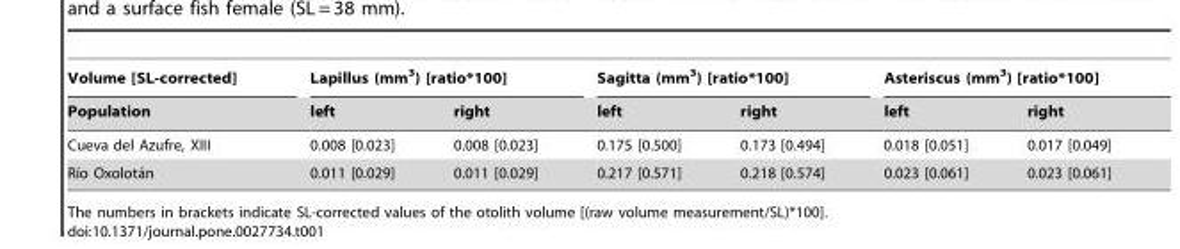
<table><thead><tr><td rowspan="2">Volume [SL-corrected] Population</td><td colspan="2">Lapillus (mm<sup>3</sup>) [ratio*100]</td><td colspan="2">Sagitta (mm<sup>3</sup>) [ratio*100]</td><td colspan="2">Asteriscus (mm<sup>3</sup>) [ratio*100]</td></tr><tr><td>left</td><td>right</td><td>left</td><td>right</td><td>left</td><td>right</td></tr></thead><tbody><tr><td>Cueva del Azufre, XIII</td><td>0.008 [0.023]</td><td>0.008 [0.023]</td><td>0.175 [0.500]</td><td>0.173 [0.494]</td><td>0.018 [0.051]</td><td>0.017 [0.049]</td></tr><tr><td>Rı´o Oxolota´n</td><td>0.011 [0.029]</td><td>0.011 [0.029]</td><td>0.217 [0.571]</td><td>0.218 [0.574]</td><td>0.023 [0.061]</td><td>0.023 [0.061]</td></tr></tbody></table>